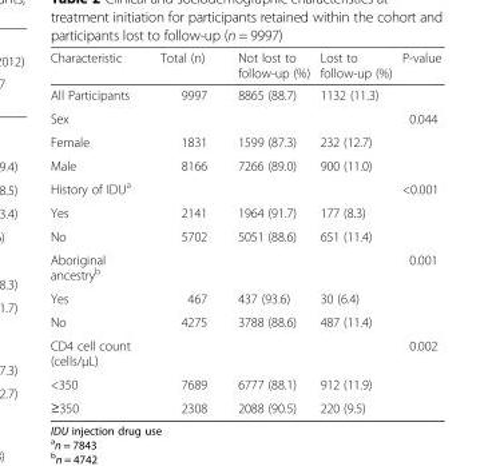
<table><thead><tr><td>Characteristic</td><td>Total (n)</td><td>Not lost to follow-up (%)</td><td>Lost to follow-up (%)</td><td>P-value</td></tr></thead><tbody><tr><td>All Participants</td><td>9997</td><td>8865 (88.7)</td><td>1132 (11.3)</td><td></td></tr><tr><td>Sex</td><td></td><td></td><td></td><td>0.044</td></tr><tr><td>Female</td><td>1831</td><td>1599 (87.3)</td><td>232 (12.7)</td><td></td></tr><tr><td>Male</td><td>8166</td><td>7266 (89.0)</td><td>900 (11.0)</td><td></td></tr><tr><td>History of IDU<sup>a</sup></td><td></td><td></td><td></td><td>&lt;0.001</td></tr><tr><td>Yes</td><td>2141</td><td>1964 (91.7)</td><td>177 (8.3)</td><td></td></tr><tr><td>No</td><td>5702</td><td>5051 (88.6)</td><td>651 (11.4)</td><td></td></tr><tr><td>Aboriginal ancestry<sup>b</sup></td><td></td><td></td><td></td><td>0.001</td></tr><tr><td>Yes</td><td>467</td><td>437 (93.6)</td><td>30 (6.4)</td><td></td></tr><tr><td>No</td><td>4275</td><td>3788 (88.6)</td><td>487 (11.4)</td><td></td></tr><tr><td>CD4 cell count (cells/μL)</td><td></td><td></td><td></td><td>0.002</td></tr><tr><td>&lt;350</td><td>7689</td><td>6777 (88.1)</td><td>912 (11.9)</td><td></td></tr><tr><td>≥350</td><td>2308</td><td>2088 (90.5)</td><td>220 (9.5)</td><td></td></tr></tbody></table>